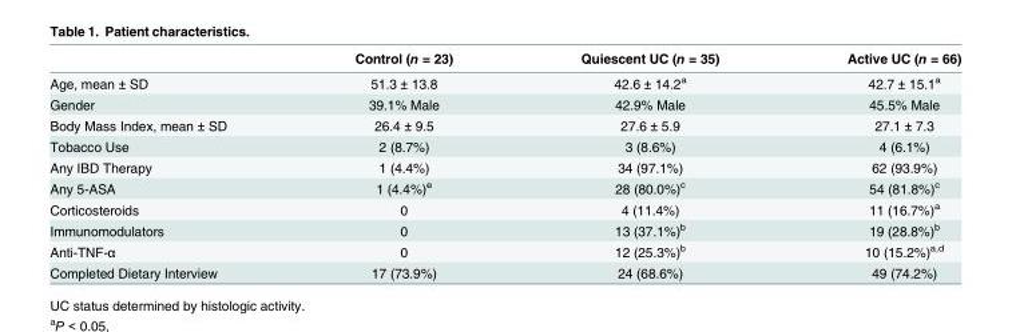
<table><thead><tr><td></td><td>Control (n = 23)</td><td>Quiescent UC (n = 35)</td><td>Active UC (n = 66)</td></tr></thead><tbody><tr><td>Age, mean ± SD</td><td>51.3 ± 13.8</td><td>42.6 ± 14.2<sup>a</sup></td><td>42.7 ± 15.1<sup>a</sup></td></tr><tr><td>Gender</td><td>39.1% Male</td><td>42.9% Male</td><td>45.5% Male</td></tr><tr><td>Body Mass Index, mean ± SD</td><td>26.4 ± 9.5</td><td>27.6 ± 5.9</td><td>27.1 ± 7.3</td></tr><tr><td>Tobacco Use</td><td>2 (8.7%)</td><td>3 (8.6%)</td><td>4 (6.1%)</td></tr><tr><td>Any IBD Therapy</td><td>1 (4.4%)</td><td>34 (97.1%)</td><td>62 (93.9%)</td></tr><tr><td>Any 5-ASA</td><td>1 (4.4%)<sup>e</sup></td><td>28 (80.0%)<sup>c</sup></td><td>54 (81.8%)<sup>c</sup></td></tr><tr><td>Corticosteroids</td><td>0</td><td>4 (11.4%)</td><td>11 (16.7%)<sup>a</sup></td></tr><tr><td>Immunomodulators</td><td>0</td><td>13 (37.1%)<sup>b</sup></td><td>19 (28.8%)<sup>b</sup></td></tr><tr><td>Anti-TNF-α</td><td>0</td><td>12 (25.3%)<sup>b</sup></td><td>10 (15.2%)<sup>a,d</sup></td></tr><tr><td>Completed Dietary Interview</td><td>17 (73.9%)</td><td>24 (68.6%)</td><td>49 (74.2%)</td></tr></tbody></table>